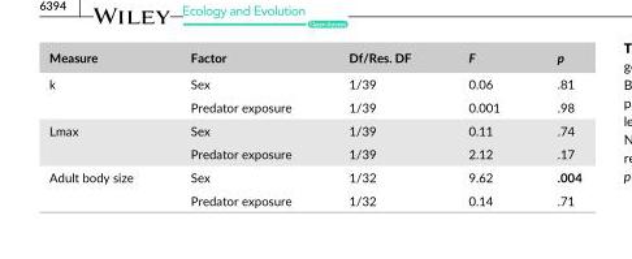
<table><thead><tr><td>Measure</td><td>Factor</td><td>Df/Res. DF</td><td>F</td><td>p</td></tr></thead><tbody><tr><td rowspan="2">k</td><td>Sex</td><td>1/39</td><td>0.06</td><td>.81</td></tr><tr><td>Predator exposure</td><td>1/39</td><td>0.001</td><td>.98</td></tr><tr><td rowspan="2">Lmax</td><td>Sex</td><td>1/39</td><td>0.11</td><td>.74</td></tr><tr><td>Predator exposure</td><td>1/39</td><td>2.12</td><td>.17</td></tr><tr><td rowspan="2">Adult body size</td><td>Sex</td><td>1/32</td><td>9.62</td><td>.004</td></tr><tr><td>Predator exposure</td><td>1/32</td><td>0.14</td><td>.71</td></tr></tbody></table>